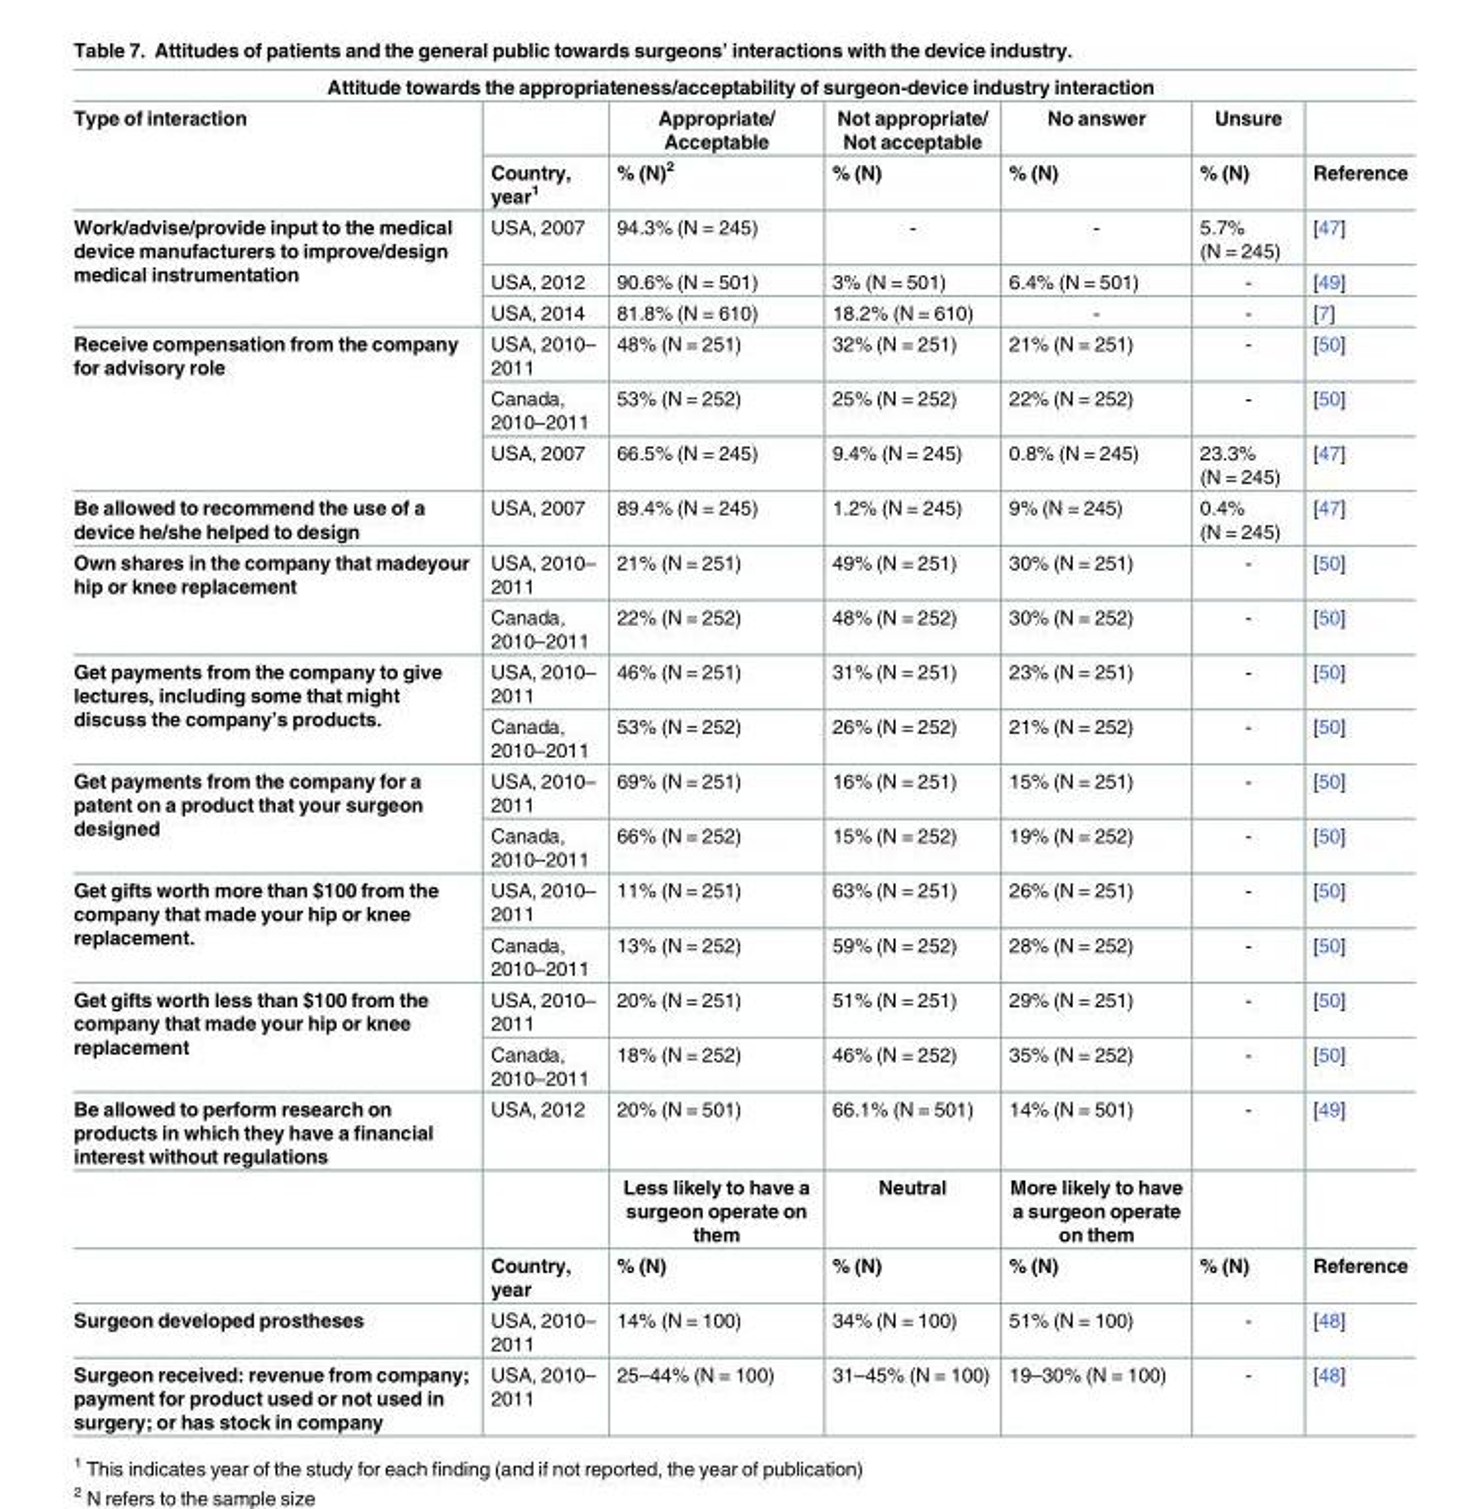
<table><tbody><tr><td colspan="7">Attitude towards the appropriateness/acceptability of surgeon-device industry interaction</td></tr><tr><td rowspan="2">Type of interaction</td><td></td><td>Appropriate/ Acceptable</td><td>Not appropriate/ Not acceptable</td><td>No answer</td><td>Unsure</td><td></td></tr><tr><td>Country, year<sup>1</sup></td><td>% (N)<sup>2</sup></td><td>% (N)</td><td>% (N)</td><td>% (N)</td><td>Reference</td></tr><tr><td rowspan="3">Work/advise/provide input to the medical device manufacturers to improve/design medical instrumentation</td><td>USA, 2007</td><td>94.3% (N = 245)</td><td>-</td><td>-</td><td>5.7% (N = 245)</td><td>[47]</td></tr><tr><td>USA, 2012</td><td>90.6% (N = 501)</td><td>3% (N = 501)</td><td>6.4% (N = 501)</td><td>-</td><td>[49]</td></tr><tr><td>USA, 2014</td><td>81.8% (N = 610)</td><td>18.2% (N = 610)</td><td>-</td><td>-</td><td>[7]</td></tr><tr><td rowspan="3">Receive compensation from the company for advisory role</td><td>USA, 2010– 2011</td><td>48% (N = 251)</td><td>32% (N = 251)</td><td>21% (N = 251)</td><td>-</td><td>[50]</td></tr><tr><td>Canada, 2010–2011</td><td>53% (N = 252)</td><td>25% (N = 252)</td><td>22% (N = 252)</td><td>-</td><td>[50]</td></tr><tr><td>USA, 2007</td><td>66.5% (N = 245)</td><td>9.4% (N = 245)</td><td>0.8% (N = 245)</td><td>23.3% (N = 245)</td><td>[47]</td></tr><tr><td>Be allowed to recommend the use of a device he/she helped to design</td><td>USA, 2007</td><td>89.4% (N = 245)</td><td>1.2% (N = 245)</td><td>9% (N = 245)</td><td>0.4% (N = 245)</td><td>[47]</td></tr><tr><td rowspan="2">Own shares in the company that madeyour hip or knee replacement</td><td>USA, 2010– 2011</td><td>21% (N = 251)</td><td>49% (N = 251)</td><td>30% (N = 251)</td><td>-</td><td>[50]</td></tr><tr><td>Canada, 2010–2011</td><td>22% (N = 252)</td><td>48% (N = 252)</td><td>30% (N = 252)</td><td>-</td><td>[50]</td></tr><tr><td rowspan="2">Get payments from the company to give lectures, including some that might discuss the company’s products.</td><td>USA, 2010– 2011</td><td>46% (N = 251)</td><td>31% (N = 251)</td><td>23% (N = 251)</td><td>-</td><td>[50]</td></tr><tr><td>Canada, 2010–2011</td><td>53% (N = 252)</td><td>26% (N = 252)</td><td>21% (N = 252)</td><td>-</td><td>[50]</td></tr><tr><td rowspan="2">Get payments from the company for a patent on a product that your surgeon designed</td><td>USA, 2010– 2011</td><td>69% (N = 251)</td><td>16% (N = 251)</td><td>15% (N = 251)</td><td>-</td><td>[50]</td></tr><tr><td>Canada, 2010–2011</td><td>66% (N = 252)</td><td>15% (N = 252)</td><td>19% (N = 252)</td><td>-</td><td>[50]</td></tr><tr><td rowspan="2">Get gifts worth more than $100 from the company that made your hip or knee replacement.</td><td>USA, 2010– 2011</td><td>11% (N = 251)</td><td>63% (N = 251)</td><td>26% (N = 251)</td><td>-</td><td>[50]</td></tr><tr><td>Canada, 2010–2011</td><td>13% (N = 252)</td><td>59% (N = 252)</td><td>28% (N = 252)</td><td>-</td><td>[50]</td></tr><tr><td rowspan="2">Get gifts worth less than $100 from the company that made your hip or knee replacement</td><td>USA, 2010– 2011</td><td>20% (N = 251)</td><td>51% (N = 251)</td><td>29% (N = 251)</td><td>-</td><td>[50]</td></tr><tr><td>Canada, 2010–2011</td><td>18% (N = 252)</td><td>46% (N = 252)</td><td>35% (N = 252)</td><td>-</td><td>[50]</td></tr><tr><td rowspan="3">Be allowed to perform research on products in which they have a financial interest without regulations</td><td>USA, 2012</td><td>20% (N = 501)</td><td>66.1% (N = 501)</td><td>14% (N = 501)</td><td>-</td><td>[49]</td></tr><tr><td></td><td>Less likely to have a surgeon operate on them</td><td>Neutral</td><td>More likely to have a surgeon operate on them</td><td></td><td></td></tr><tr><td>Country, year</td><td>% (N)</td><td>% (N)</td><td>% (N)</td><td>% (N)</td><td>Reference</td></tr><tr><td>Surgeon developed prostheses</td><td>USA, 2010– 2011</td><td>14% (N = 100)</td><td>34% (N = 100)</td><td>51% (N = 100)</td><td>-</td><td>[48]</td></tr><tr><td>Surgeon received: revenue from company; payment for product used or not used in surgery; or has stock in company</td><td>USA, 2010– 2011</td><td>25–44% (N = 100)</td><td>31–45% (N = 100)</td><td>19–30% (N = 100)</td><td>-</td><td>[48]</td></tr></tbody></table>